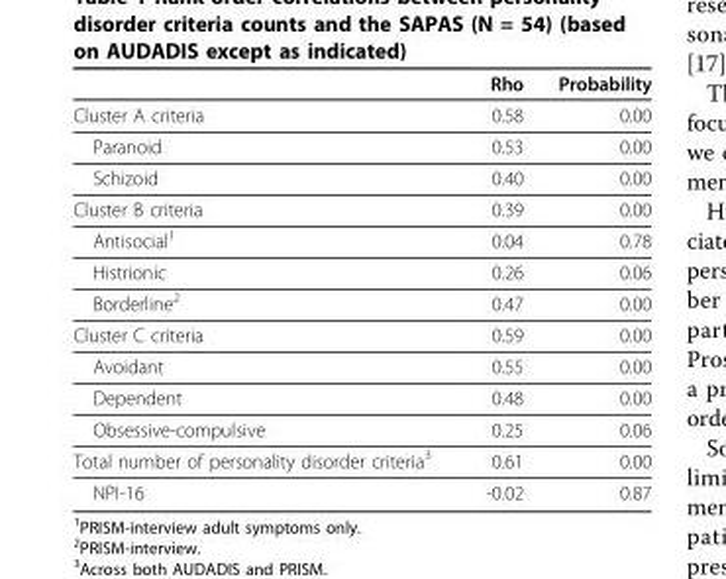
<table><thead><tr><td></td><td>Rho</td><td>Probability</td></tr></thead><tbody><tr><td>Cluster A criteria</td><td>0.58</td><td>0.00</td></tr><tr><td>Paranoid</td><td>0.53</td><td>0.00</td></tr><tr><td>Schizoid</td><td>0.40</td><td>0.00</td></tr><tr><td>Cluster B criteria</td><td>0.39</td><td>0.00</td></tr><tr><td>Antisocial<sup>1</sup></td><td>0.04</td><td>0.78</td></tr><tr><td>Histrionic</td><td>0.26</td><td>0.06</td></tr><tr><td>Borderline<sup>2</sup></td><td>0.47</td><td>0.00</td></tr><tr><td>Cluster C criteria</td><td>0.59</td><td>0.00</td></tr><tr><td>Avoidant</td><td>0.55</td><td>0.00</td></tr><tr><td>Dependent</td><td>0.48</td><td>0.00</td></tr><tr><td>Obsessive-compulsive</td><td>0.25</td><td>0.06</td></tr><tr><td>Total number of personality disorder criteria<sup>3</sup></td><td>0.61</td><td>0.00</td></tr><tr><td>NPI-16</td><td>-0.02</td><td>0.87</td></tr></tbody></table>